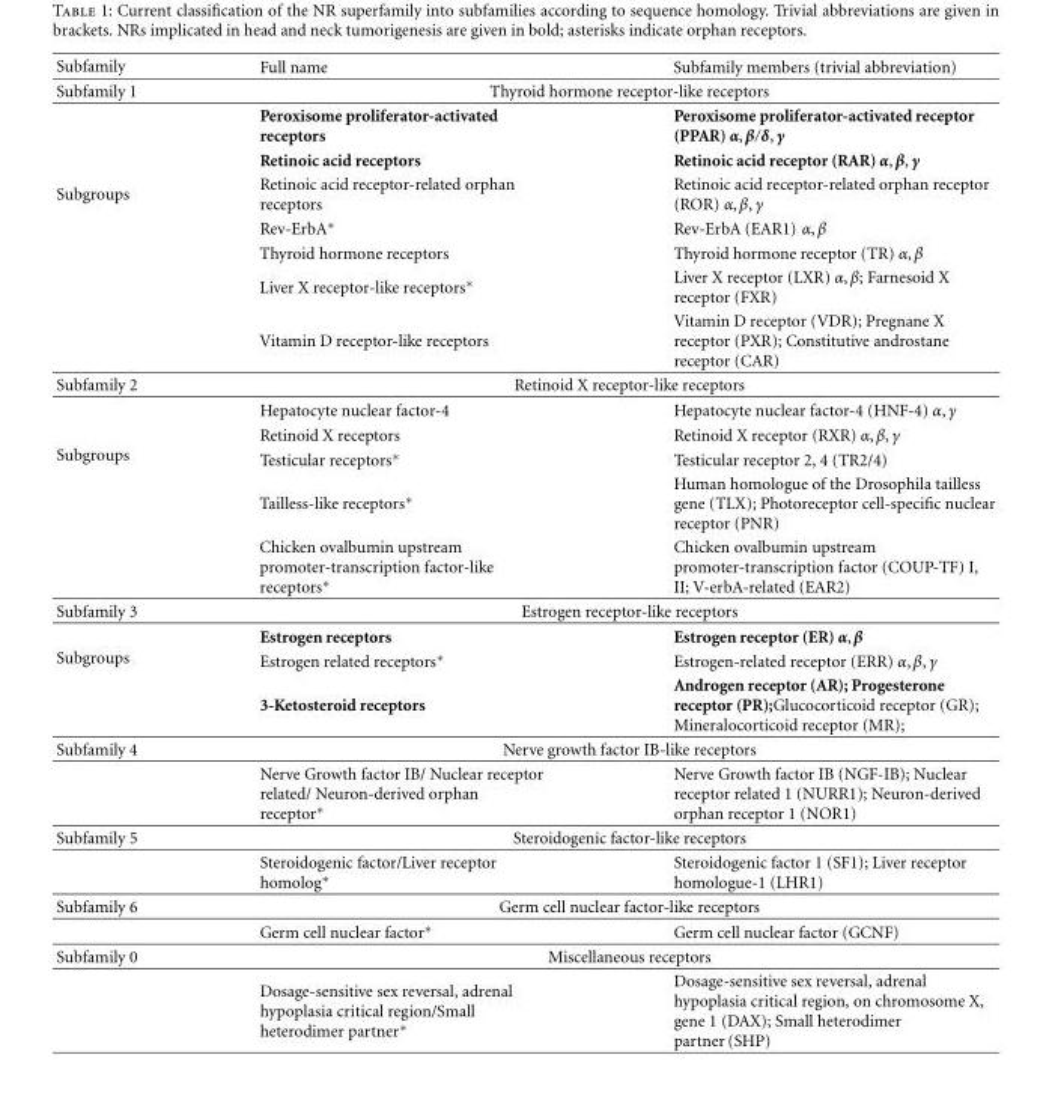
<table><thead><tr><td>Subfamily</td><td>Full name</td><td>Subfamily members (trivial abbreviation)</td></tr></thead><tbody><tr><td>Subfamily 1</td><td colspan="2">Thyroid hormone receptor-like receptors</td></tr><tr><td rowspan="7">Subgroups</td><td>Peroxisome proliferator-activated receptors</td><td>Peroxisome proliferator-activated receptor (PPAR) α,β/δ,γ</td></tr><tr><td>Retinoic acid receptors</td><td>Retinoic acid receptor (RAR) α,β,γ</td></tr><tr><td>Retinoic acid receptor-related orphan receptors</td><td>Retinoic acid receptor-related orphan receptor (ROR) α,β,γ</td></tr><tr><td>Rev-ErbA∗</td><td>Rev-ErbA (EAR1) α,β</td></tr><tr><td>Thyroid hormone receptors</td><td>Thyroid hormone receptor (TR) α,β</td></tr><tr><td>Liver X receptor-like receptors∗</td><td>Liver X receptor (LXR) α,β; Farnesoid X receptor (FXR)</td></tr><tr><td>Vitamin D receptor-like receptors</td><td>Vitamin D receptor (VDR); Pregnane X receptor (PXR); Constitutive androstane receptor (CAR)</td></tr><tr><td>Subfamily 2</td><td colspan="2">Retinoid X receptor-like receptors</td></tr><tr><td rowspan="5">Subgroups</td><td>Hepatocyte nuclear factor-4</td><td>Hepatocyte nuclear factor-4 (HNF-4) α,γ</td></tr><tr><td>Retinoid X receptors</td><td>Retinoid X receptor (RXR) α,β,γ</td></tr><tr><td>Testicular receptors∗</td><td>Testicular receptor 2, 4 (TR2/4)</td></tr><tr><td>Tailless-like receptors∗</td><td>Human homologue of the Drosophila tailless gene (TLX); Photoreceptor cell-specific nuclear receptor (PNR)</td></tr><tr><td>Chicken ovalbumin upstream promoter-transcription factor-like receptors∗</td><td>Chicken ovalbumin upstream promoter-transcription factor (COUP-TF) I, II; V-erbA-related (EAR2)</td></tr><tr><td>Subfamily 3</td><td colspan="2">Estrogen receptor-like receptors</td></tr><tr><td rowspan="3">Subgroups</td><td>Estrogen receptors</td><td>Estrogen receptor (ER) α,β</td></tr><tr><td>Estrogen related receptors∗</td><td>Estrogen-related receptor (ERR) α,β,γ</td></tr><tr><td>3-Ketosteroid receptors</td><td>Androgen receptor (AR); Progesterone receptor (PR);Glucocorticoid receptor (GR); Mineralocorticoid receptor (MR);</td></tr><tr><td rowspan="2">Subfamily 4</td><td colspan="2">Nerve growth factor IB-like receptors</td></tr><tr><td>Nerve Growth factor IB/ Nuclear receptor related/ Neuron-derived orphan receptor∗</td><td>Nerve Growth factor IB (NGF-IB); Nuclear receptor related 1 (NURR1); Neuron-derived orphan receptor 1 (NOR1)</td></tr><tr><td rowspan="2">Subfamily 5</td><td colspan="2">Steroidogenic factor-like receptors</td></tr><tr><td>Steroidogenic factor/Liver receptor homolog∗</td><td>Steroidogenic factor 1 (SF1); Liver receptor homologue-1 (LHR1)</td></tr><tr><td rowspan="2">Subfamily 6</td><td colspan="2">Germ cell nuclear factor-like receptors</td></tr><tr><td>Germ cell nuclear factor∗</td><td>Germ cell nuclear factor (GCNF)</td></tr><tr><td rowspan="2">Subfamily 0</td><td colspan="2">Miscellaneous receptors</td></tr><tr><td>Dosage-sensitive sex reversal, adrenal hypoplasia critical region/Small heterodimer partner∗</td><td>Dosage-sensitive sex reversal, adrenal hypoplasia critical region, on chromosome X, gene 1 (DAX); Small heterodimer partner (SHP)</td></tr></tbody></table>